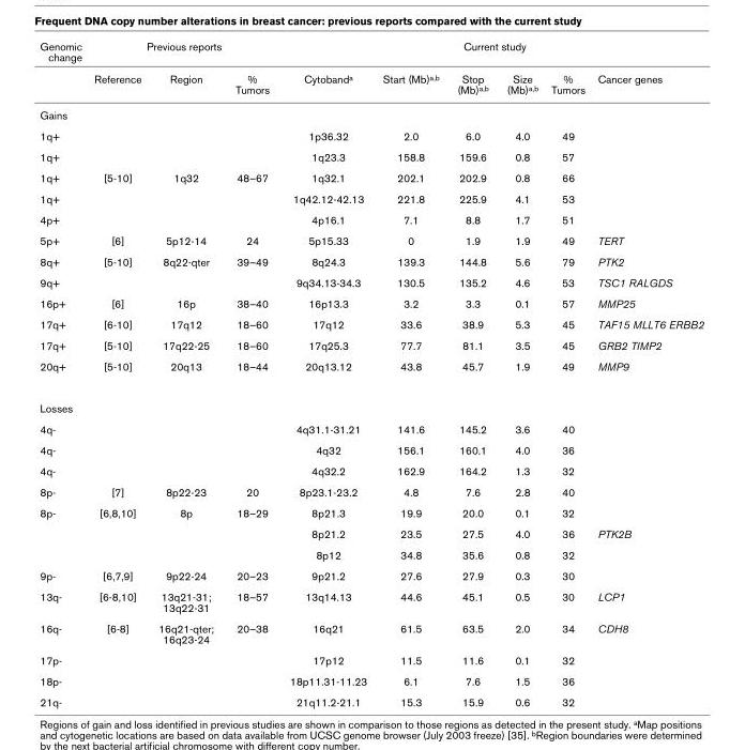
<table><thead><tr><td rowspan="2">Genomic change</td><td colspan="3">Previous reports</td><td colspan="6">Current study</td></tr><tr><td>Reference</td><td>Region</td><td>% Tumors</td><td>Cytobanda</td><td>Start (Mb)a,b</td><td>Stop (Mb)a,b</td><td>Size (Mb)a,b</td><td>% Tumors</td><td>Cancer genes</td></tr></thead><tbody><tr><td colspan="10">Gains</td></tr><tr><td>1q+</td><td></td><td></td><td></td><td>1p36.32</td><td>2.0</td><td>6.0</td><td>4.0</td><td>49</td><td></td></tr><tr><td>1q+</td><td></td><td></td><td></td><td>1q23.3</td><td>158.8</td><td>159.6</td><td>0.8</td><td>57</td><td></td></tr><tr><td>1q+</td><td>[5-10]</td><td>1q32</td><td>48–67</td><td>1q32.1</td><td>202.1</td><td>202.9</td><td>0.8</td><td>66</td><td></td></tr><tr><td>1q+</td><td></td><td></td><td></td><td>1q42.12-42.13</td><td>221.8</td><td>225.9</td><td>4.1</td><td>53</td><td></td></tr><tr><td>4p+</td><td></td><td></td><td></td><td>4p16.1</td><td>7.1</td><td>8.8</td><td>1.7</td><td>51</td><td></td></tr><tr><td>5p+</td><td>[6]</td><td>5p12-14</td><td>24</td><td>5p15.33</td><td>0</td><td>1.9</td><td>1.9</td><td>49</td><td>TERT</td></tr><tr><td>8q+</td><td>[5-10]</td><td>8q22-qter</td><td>39–49</td><td>8q24.3</td><td>139.3</td><td>144.8</td><td>5.6</td><td>79</td><td>PTK2</td></tr><tr><td>9q+</td><td></td><td></td><td></td><td>9q34.13-34.3</td><td>130.5</td><td>135.2</td><td>4.6</td><td>53</td><td>TSC1 RALGDS</td></tr><tr><td>16p+</td><td>[6]</td><td>16p</td><td>38–40</td><td>16p13.3</td><td>3.2</td><td>3.3</td><td>0.1</td><td>57</td><td>MMP25</td></tr><tr><td>17q+</td><td>[6-10]</td><td>17q12</td><td>18–60</td><td>17q12</td><td>33.6</td><td>38.9</td><td>5.3</td><td>45</td><td>TAF15 MLLT6 ERBB2</td></tr><tr><td>17q+</td><td>[5-10]</td><td>17q22-25</td><td>18–60</td><td>17q25.3</td><td>77.7</td><td>81.1</td><td>3.5</td><td>45</td><td>GRB2 TIMP2</td></tr><tr><td>20q+</td><td>[5-10]</td><td>20q13</td><td>18–44</td><td>20q13.12</td><td>43.8</td><td>45.7</td><td>1.9</td><td>49</td><td>MMP9</td></tr><tr><td colspan="10">Losses</td></tr><tr><td>4q-</td><td></td><td></td><td></td><td>4q31.1-31.21</td><td>141.6</td><td>145.2</td><td>3.6</td><td>40</td><td></td></tr><tr><td>4q-</td><td></td><td></td><td></td><td>4q32</td><td>156.1</td><td>160.1</td><td>4.0</td><td>36</td><td></td></tr><tr><td>4q-</td><td></td><td></td><td></td><td>4q32.2</td><td>162.9</td><td>164.2</td><td>1.3</td><td>32</td><td></td></tr><tr><td>8p-</td><td>[7]</td><td>8p22-23</td><td>20</td><td>8p23.1-23.2</td><td>4.8</td><td>7.6</td><td>2.8</td><td>40</td><td></td></tr><tr><td rowspan="3">8p-</td><td>[6,8,10]</td><td>8p</td><td>18–29</td><td>8p21.3</td><td>19.9</td><td>20.0</td><td>0.1</td><td>32</td><td></td></tr><tr><td></td><td></td><td></td><td>8p21.2</td><td>23.5</td><td>27.5</td><td>4.0</td><td>36</td><td>PTK2B</td></tr><tr><td></td><td></td><td></td><td>8p12</td><td>34.8</td><td>35.6</td><td>0.8</td><td>32</td><td></td></tr><tr><td>9p-</td><td>[6,7,9]</td><td>9p22-24</td><td>20–23</td><td>9p21.2</td><td>27.6</td><td>27.9</td><td>0.3</td><td>30</td><td></td></tr><tr><td>13q-</td><td>[6-8,10]</td><td>13q21-31; 13q22-31</td><td>18–57</td><td>13q14.13</td><td>44.6</td><td>45.1</td><td>0.5</td><td>30</td><td>LCP1</td></tr><tr><td>16q-</td><td>[6-8]</td><td>16q21-qter; 16q23-24</td><td>20–38</td><td>16q21</td><td>61.5</td><td>63.5</td><td>2.0</td><td>34</td><td>CDH8</td></tr><tr><td>17p-</td><td></td><td></td><td></td><td>17p12</td><td>11.5</td><td>11.6</td><td>0.1</td><td>32</td><td></td></tr><tr><td>18p-</td><td></td><td></td><td></td><td>18p11.31-11.23</td><td>6.1</td><td>7.6</td><td>1.5</td><td>36</td><td></td></tr><tr><td>21q-</td><td></td><td></td><td></td><td>21q11.2-21.1</td><td>15.3</td><td>15.9</td><td>0.6</td><td>32</td><td></td></tr></tbody></table>